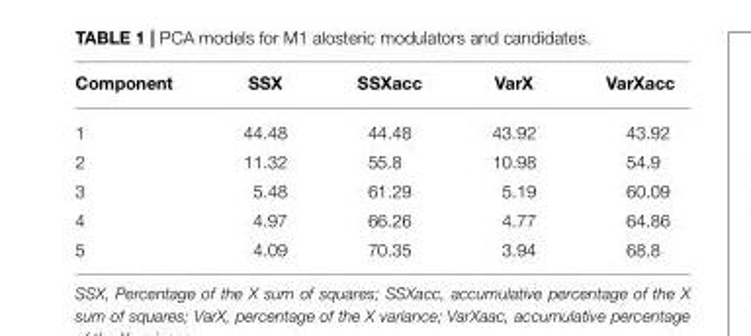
<table><thead><tr><td>Component</td><td>SSX</td><td>SSXacc</td><td>VarX</td><td>VarXacc</td></tr></thead><tbody><tr><td>1</td><td>44.48</td><td>44.48</td><td>43.92</td><td>43.92</td></tr><tr><td>2</td><td>11.32</td><td>55.8</td><td>10.98</td><td>54.9</td></tr><tr><td>3</td><td>5.48</td><td>61.29</td><td>5.19</td><td>60.09</td></tr><tr><td>4</td><td>4.97</td><td>66.26</td><td>4.77</td><td>64.86</td></tr><tr><td>5</td><td>4.09</td><td>70.35</td><td>3.94</td><td>68.8</td></tr></tbody></table>